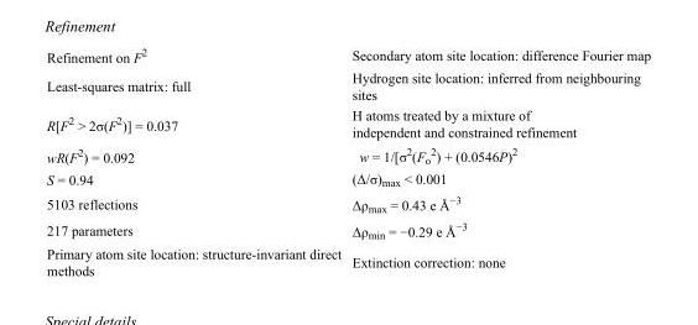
<table><tbody><tr><td>Refinement on F<sup>2</sup></td><td>Secondary atom site location: difference Fourier map</td></tr><tr><td>Least-squares matrix: full</td><td>Hydrogen site location: inferred from neighbouring sites</td></tr><tr><td>R[F<sup>2</sup> &gt; 2σ(F<sup>2</sup>)] = 0.037</td><td>H atoms treated by a mixture of independent and constrained refinement</td></tr><tr><td>wR(F<sup>2</sup>) = 0.092</td><td>w = 1/[σ<sup>2</sup>(F<sub>o</sub> <sup>2</sup>) + (0.0546P)<sup>2</sup></td></tr><tr><td>S = 0.94</td><td>(Δ/σ)<sub>max</sub> &lt; 0.001</td></tr><tr><td>5103 reflections</td><td>Δρ<sub>max</sub> = 0.43 e Å<sup>−3</sup></td></tr><tr><td>217 parameters</td><td>Δρ<sub>min</sub> = −0.29 e Å<sup>−3</sup></td></tr><tr><td>Primary atom site location: structure-invariant direct methods</td><td>Extinction correction: none</td></tr></tbody></table>